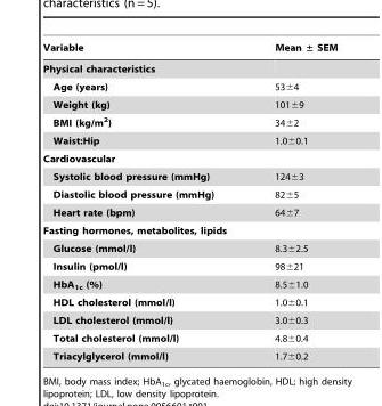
<table><thead><tr><td>Variable</td><td>Mean ± SEM</td></tr></thead><tbody><tr><td colspan="2">Physical characteristics</td></tr><tr><td>Age (years)</td><td>53±4</td></tr><tr><td>Weight (kg)</td><td>101±9</td></tr><tr><td>BMI (kg/m<sup>2</sup>)</td><td>34±2</td></tr><tr><td>Waist:Hip</td><td>1.0±0.1</td></tr><tr><td colspan="2">Cardiovascular</td></tr><tr><td>Systolic blood pressure (mmHg)</td><td>124±3</td></tr><tr><td>Diastolic blood pressure (mmHg)</td><td>82±5</td></tr><tr><td>Heart rate (bpm)</td><td>64±7</td></tr><tr><td colspan="2">Fasting hormones, metabolites, lipids</td></tr><tr><td>Glucose (mmol/l)</td><td>8.3±2.5</td></tr><tr><td>Insulin (pmol/l)</td><td>98±21</td></tr><tr><td>HbA<sub>1c</sub> (%)</td><td>8.5±1.0</td></tr><tr><td>HDL cholesterol (mmol/l)</td><td>1.0±0.1</td></tr><tr><td>LDL cholesterol (mmol/l)</td><td>3.0±0.3</td></tr><tr><td>Total cholesterol (mmol/l)</td><td>4.8±0.4</td></tr><tr><td>Triacylglycerol (mmol/l)</td><td>1.7±0.2</td></tr></tbody></table>